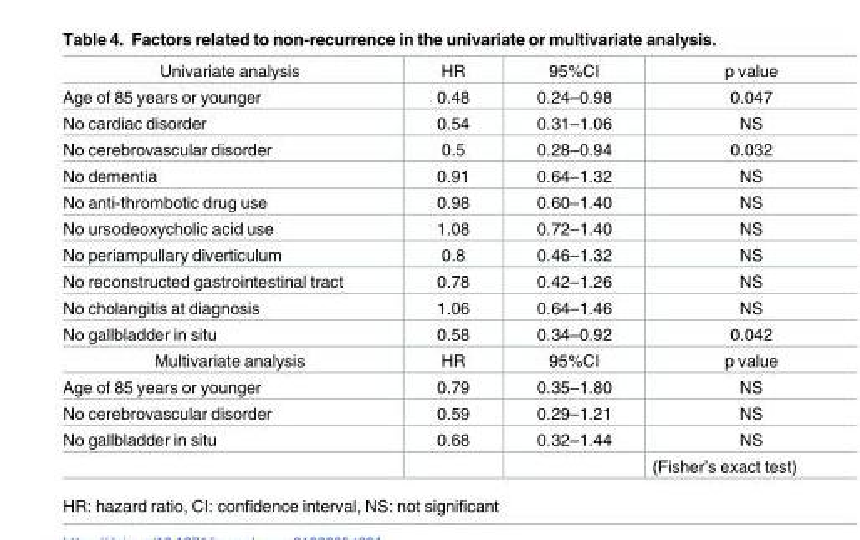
<table><tbody><tr><td>Univariate analysis</td><td>HR</td><td>95%CI</td><td>p value</td></tr><tr><td>Age of 85 years or younger</td><td>0.48</td><td>0.24–0.98</td><td>0.047</td></tr><tr><td>No cardiac disorder</td><td>0.54</td><td>0.31–1.06</td><td>NS</td></tr><tr><td>No cerebrovascular disorder</td><td>0.5</td><td>0.28–0.94</td><td>0.032</td></tr><tr><td>No dementia</td><td>0.91</td><td>0.64–1.32</td><td>NS</td></tr><tr><td>No anti-thrombotic drug use</td><td>0.98</td><td>0.60–1.40</td><td>NS</td></tr><tr><td>No ursodeoxycholic acid use</td><td>1.08</td><td>0.72–1.40</td><td>NS</td></tr><tr><td>No periampullary diverticulum</td><td>0.8</td><td>0.46–1.32</td><td>NS</td></tr><tr><td>No reconstructed gastrointestinal tract</td><td>0.78</td><td>0.42–1.26</td><td>NS</td></tr><tr><td>No cholangitis at diagnosis</td><td>1.06</td><td>0.64–1.46</td><td>NS</td></tr><tr><td>No gallbladder in situ</td><td>0.58</td><td>0.34–0.92</td><td>0.042</td></tr><tr><td>Multivariate analysis</td><td>HR</td><td>95%CI</td><td>p value</td></tr><tr><td>Age of 85 years or younger</td><td>0.79</td><td>0.35–1.80</td><td>NS</td></tr><tr><td>No cerebrovascular disorder</td><td>0.59</td><td>0.29–1.21</td><td>NS</td></tr><tr><td rowspan="2">No gallbladder in situ</td><td>0.68</td><td>0.32–1.44</td><td>NS</td></tr><tr><td></td><td></td><td>(Fisher’s exact test)</td></tr></tbody></table>